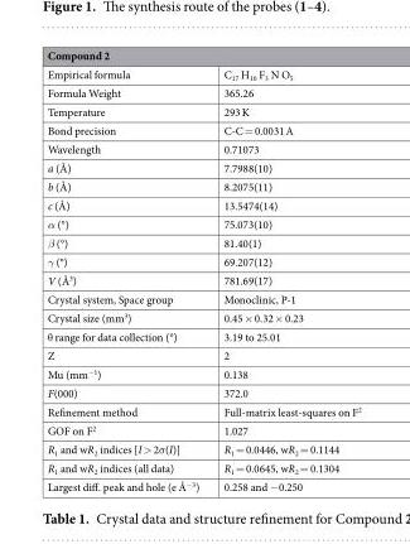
<table><thead><tr><td colspan="2">Compound 2</td></tr><tr><td>Empirical formula</td><td>C<sub>17</sub> H<sub>10</sub> F<sub>3</sub> N O<sub>5</sub></td></tr></thead><tbody><tr><td>Formula Weight</td><td>365.26</td></tr><tr><td>Temperature</td><td>293 K</td></tr><tr><td>Bond precision</td><td>C-C = 0.0031 A</td></tr><tr><td>Wavelength</td><td>0.71073</td></tr><tr><td>a (Å)</td><td>7.7988(10)</td></tr><tr><td>b (Å)</td><td>8.2075(11)</td></tr><tr><td>c (Å)</td><td>13.5474(14)</td></tr><tr><td>α (°)</td><td>75.073(10)</td></tr><tr><td>β (°)</td><td>81.40(1)</td></tr><tr><td>γ (°)</td><td>69.207(12)</td></tr><tr><td>V (Å<sup>3</sup>)</td><td>781.69(17)</td></tr><tr><td>Crystal system, Space group</td><td>Monoclinic, P-1</td></tr><tr><td>Crystal size (mm<sup>3</sup>)</td><td>0.45 × 0.32 × 0.23</td></tr><tr><td>θ range for data collection (°)</td><td>3.19 to 25.01</td></tr><tr><td>Z</td><td>2</td></tr><tr><td>Mu (mm<sup>−1</sup>)</td><td>0.138</td></tr><tr><td>F(000)</td><td>372.0</td></tr><tr><td>Refinement method</td><td>Full-matrix least-squares on F<sup>2</sup></td></tr><tr><td>GOF on F<sup>2</sup></td><td>1.027</td></tr><tr><td>R<sub>1</sub> and wR<sub>2</sub> indices [I &gt; 2σ(I)]</td><td>R<sub>1</sub> = 0.0446, wR<sub>2</sub> = 0.1144</td></tr><tr><td>R<sub>1</sub> and wR<sub>2</sub> indices (all data)</td><td>R<sub>1</sub> = 0.0645, wR<sub>2</sub> = 0.1304</td></tr><tr><td>Largest diff. peak and hole (e Å<sup>−3</sup>)</td><td>0.258 and −0.250</td></tr></tbody></table>